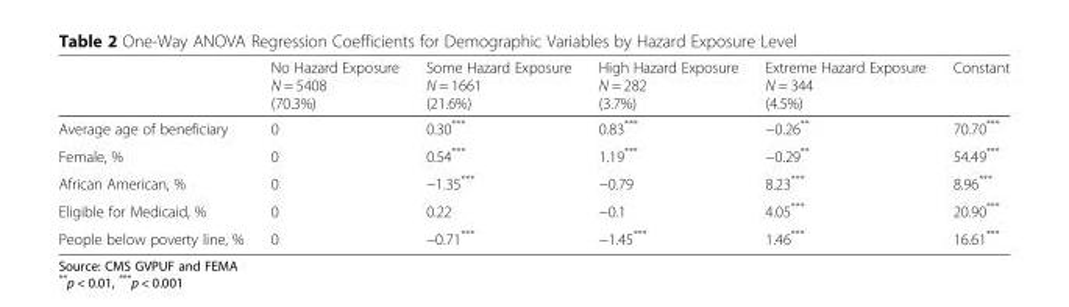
<table><thead><tr><td></td><td>No Hazard Exposure N = 5408 (70.3%)</td><td>Some Hazard Exposure N = 1661 (21.6%)</td><td>High Hazard Exposure N = 282 (3.7%)</td><td>Extreme Hazard Exposure N = 344 (4.5%)</td><td>Constant</td></tr></thead><tbody><tr><td>Average age of beneficiary</td><td>0</td><td>0.30***</td><td>0.83***</td><td>−0.26**</td><td>70.70***</td></tr><tr><td>Female, %</td><td>0</td><td>0.54***</td><td>1.19***</td><td>−0.29**</td><td>54.49***</td></tr><tr><td>African American, %</td><td>0</td><td>−1.35***</td><td>−0.79</td><td>8.23***</td><td>8.96***</td></tr><tr><td>Eligible for Medicaid, %</td><td>0</td><td>0.22</td><td>−0.1</td><td>4.05***</td><td>20.90***</td></tr><tr><td>People below poverty line, %</td><td>0</td><td>−0.71***</td><td>−1.45***</td><td>1.46***</td><td>16.61***</td></tr></tbody></table>